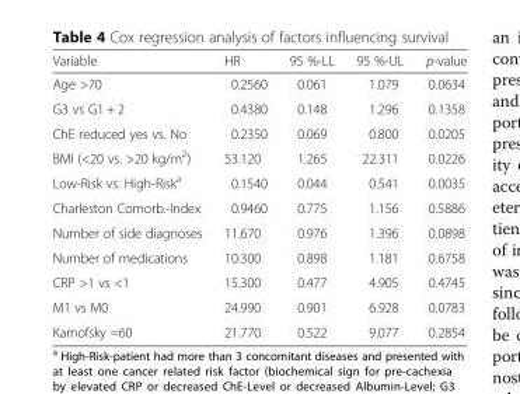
<table><thead><tr><td>Variable</td><td>HR</td><td>95 %-LL</td><td>95 %-UL</td><td>p-value</td></tr></thead><tbody><tr><td>Age &gt;70</td><td>0.2560</td><td>0.061</td><td>1.079</td><td>0.0634</td></tr><tr><td>G3 vs G1 + 2</td><td>0.4380</td><td>0.148</td><td>1.296</td><td>0.1358</td></tr><tr><td>ChE reduced yes vs. No</td><td>0.2350</td><td>0.069</td><td>0.800</td><td>0.0205</td></tr><tr><td>BMI (&lt;20 vs. &gt;20 kg/m<sup>2</sup>)</td><td>53.120</td><td>1.265</td><td>22.311</td><td>0.0226</td></tr><tr><td>Low-Risk vs. High-Risk<sup>a</sup></td><td>0.1540</td><td>0.044</td><td>0.541</td><td>0.0035</td></tr><tr><td>Charleston Comorb.-Index</td><td>0.9460</td><td>0.775</td><td>1.156</td><td>0.5886</td></tr><tr><td>Number of side diagnoses</td><td>11.670</td><td>0.976</td><td>1.396</td><td>0.0898</td></tr><tr><td>Number of medications</td><td>10.300</td><td>0.898</td><td>1.181</td><td>0.6758</td></tr><tr><td>CRP &gt;1 vs &lt;1</td><td>15.300</td><td>0.477</td><td>4.905</td><td>0.4745</td></tr><tr><td>M1 vs M0</td><td>24.990</td><td>0.901</td><td>6.928</td><td>0.0783</td></tr><tr><td>Karnofsky =60</td><td>21.770</td><td>0.522</td><td>9.077</td><td>0.2854</td></tr></tbody></table>